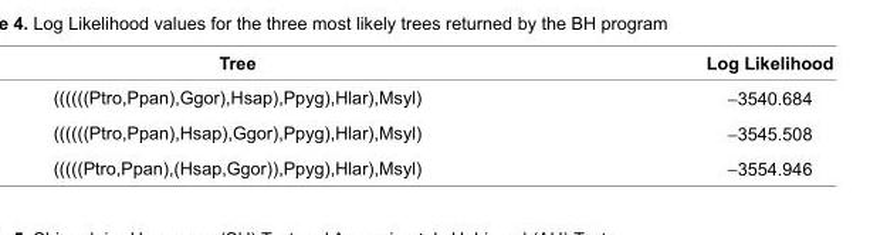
<table><thead><tr><td>Tree</td><td>Log Likelihood</td></tr></thead><tbody><tr><td>((((((Ptro,Ppan),Ggor),Hsap),Ppyg),Hlar),Msyl)</td><td>−3540.684</td></tr><tr><td>((((((Ptro,Ppan),Hsap),Ggor),Ppyg),Hlar),Msyl)</td><td>−3545.508</td></tr><tr><td>(((((Ptro,Ppan),(Hsap,Ggor)),Ppyg),Hlar),Msyl)</td><td>−3554.946</td></tr></tbody></table>